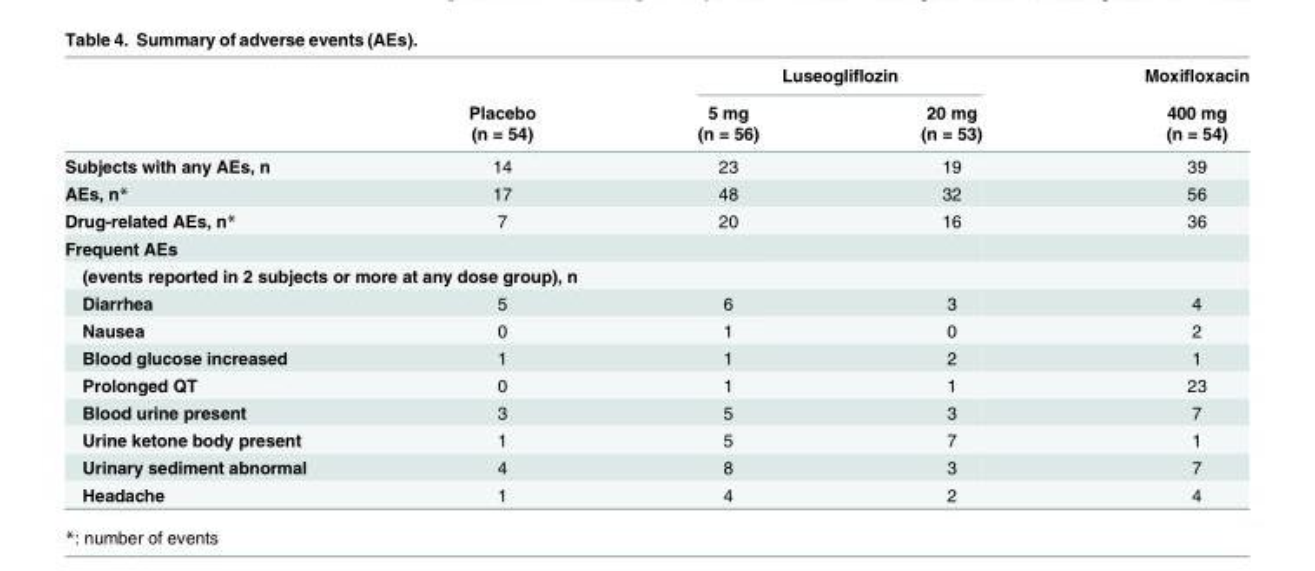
<table><thead><tr><td rowspan="3"></td><td rowspan="3">Placebo (n = 54)</td><td colspan="2">Luseogliflozin</td><td rowspan="3">Moxifloxacin 400 mg (n = 54)</td></tr><tr><td rowspan="2">5 mg (n = 56)</td><td rowspan="2">20 mg (n = 53)</td></tr><tr></tr></thead><tbody><tr><td>Subjects with any AEs, n</td><td>14</td><td>23</td><td>19</td><td>39</td></tr><tr><td>AEs, n*</td><td>17</td><td>48</td><td>32</td><td>56</td></tr><tr><td>Drug-related AEs, n*</td><td>7</td><td>20</td><td>16</td><td>36</td></tr><tr><td colspan="5">Frequent AEs</td></tr><tr><td colspan="5">(events reported in 2 subjects or more at any dose group), n</td></tr><tr><td>Diarrhea</td><td>5</td><td>6</td><td>3</td><td>4</td></tr><tr><td>Nausea</td><td>0</td><td>1</td><td>0</td><td>2</td></tr><tr><td>Blood glucose increased</td><td>1</td><td>1</td><td>2</td><td>1</td></tr><tr><td>Prolonged QT</td><td>0</td><td>1</td><td>1</td><td>23</td></tr><tr><td>Blood urine present</td><td>3</td><td>5</td><td>3</td><td>7</td></tr><tr><td>Urine ketone body present</td><td>1</td><td>5</td><td>7</td><td>1</td></tr><tr><td>Urinary sediment abnormal</td><td>4</td><td>8</td><td>3</td><td>7</td></tr><tr><td>Headache</td><td>1</td><td>4</td><td>2</td><td>4</td></tr></tbody></table>